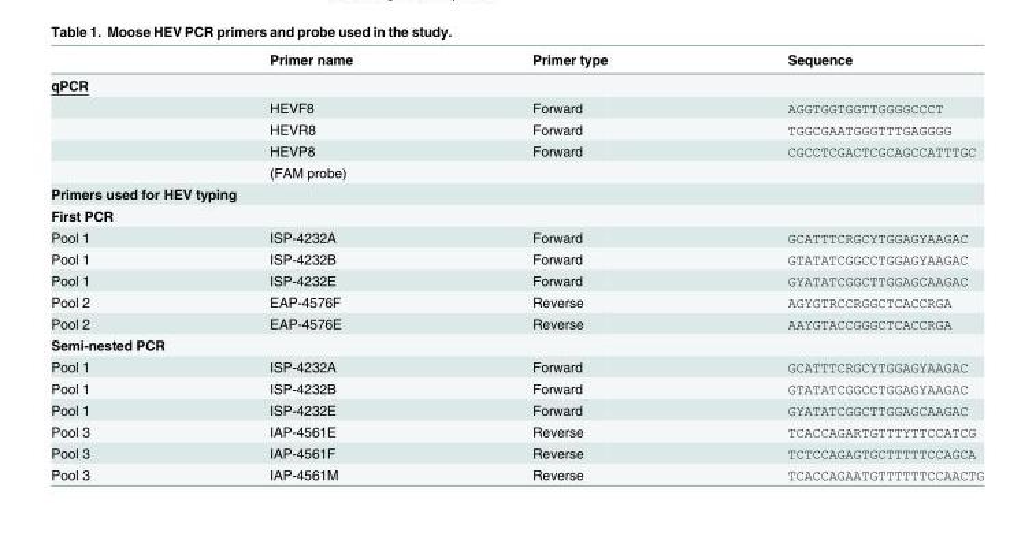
<table><thead><tr><td></td><td>Primer name</td><td>Primer type</td><td>Sequence</td></tr></thead><tbody><tr><td colspan="4">qPCR</td></tr><tr><td></td><td>HEVF8</td><td>Forward</td><td>AGGTGGTGGTTGGGGCCCT</td></tr><tr><td></td><td>HEVR8</td><td>Forward</td><td>TGGCGAATGGGTTTGAGGGG</td></tr><tr><td></td><td>HEVP8</td><td>Forward</td><td>CGCCTCGACTCGCAGCCATTTGC</td></tr><tr><td></td><td>(FAM probe)</td><td></td><td></td></tr><tr><td colspan="4">Primers used for HEV typing</td></tr><tr><td colspan="4">First PCR</td></tr><tr><td>Pool 1</td><td>ISP-4232A</td><td>Forward</td><td>GCATTTCRGCYTGGAGYAAGAC</td></tr><tr><td>Pool 1</td><td>ISP-4232B</td><td>Forward</td><td>GTATATCGGCCTGGAGYAAGAC</td></tr><tr><td>Pool 1</td><td>ISP-4232E</td><td>Forward</td><td>GYATATCGGCTTGGAGCAAGAC</td></tr><tr><td>Pool 2</td><td>EAP-4576F</td><td>Reverse</td><td>AGYGTRCCRGGCTCACCRGA</td></tr><tr><td>Pool 2</td><td>EAP-4576E</td><td>Reverse</td><td>AAYGTACCGGGCTCACCRGA</td></tr><tr><td colspan="4">Semi-nested PCR</td></tr><tr><td>Pool 1</td><td>ISP-4232A</td><td>Forward</td><td>GCATTTCRGCYTGGAGYAAGAC</td></tr><tr><td>Pool 1</td><td>ISP-4232B</td><td>Forward</td><td>GTATATCGGCCTGGAGYAAGAC</td></tr><tr><td>Pool 1</td><td>ISP-4232E</td><td>Forward</td><td>GYATATCGGCTTGGAGCAAGAC</td></tr><tr><td>Pool 3</td><td>IAP-4561E</td><td>Reverse</td><td>TCACCAGARTGTTTYTTCCATCG</td></tr><tr><td>Pool 3</td><td>IAP-4561F</td><td>Reverse</td><td>TCTCCAGAGTGCTTTTTCCAGCA</td></tr><tr><td>Pool 3</td><td>IAP-4561M</td><td>Reverse</td><td>TCACCAGAATGTTTTTTCCAACTG</td></tr></tbody></table>